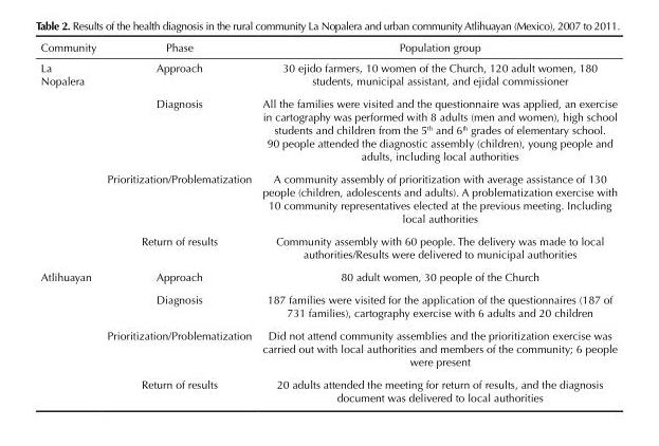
<table><thead><tr><td>Community</td><td>Phase</td><td>Population group</td></tr></thead><tbody><tr><td rowspan="4">La Nopalera</td><td>Approach</td><td>30 ejido farmers, 10 women of the Church, 120 adult women, 180 students, municipal assistant, and ejidal commissioner</td></tr><tr><td>Diagnosis</td><td>All the families were visited and the questionnaire was applied, an exercise in cartography was performed with 8 adults (men and women), high school students and children from the 5<sup>th</sup> and 6<sup>th</sup> grades of elementary school. 90 people attended the diagnostic assembly (children), young people and adults, including local authorities</td></tr><tr><td>Prioritization/Problematization</td><td>A community assembly of prioritization with average assistance of 130 people (children, adolescents and adults). A problematization exercise with 10 community representatives elected at the previous meeting. Including local authorities</td></tr><tr><td>Return of results</td><td>Community assembly with 60 people. The delivery was made to local authorities/Results were delivered to municipal authorities</td></tr><tr><td rowspan="4">Atlihuayan</td><td>Approach</td><td>80 adult women, 30 people of the Church</td></tr><tr><td>Diagnosis</td><td>187 families were visited for the application of the questionnaires (187 of 731 families), cartography exercise with 6 adults and 20 children</td></tr><tr><td>Prioritization/Problematization</td><td>Did not attend community assemblies and the prioritization exercise was carried out with local authorities and members of the community; 6 people were present</td></tr><tr><td>Return of results</td><td>20 adults attended the meeting for return of results, and the diagnosis document was delivered to local authorities</td></tr></tbody></table>